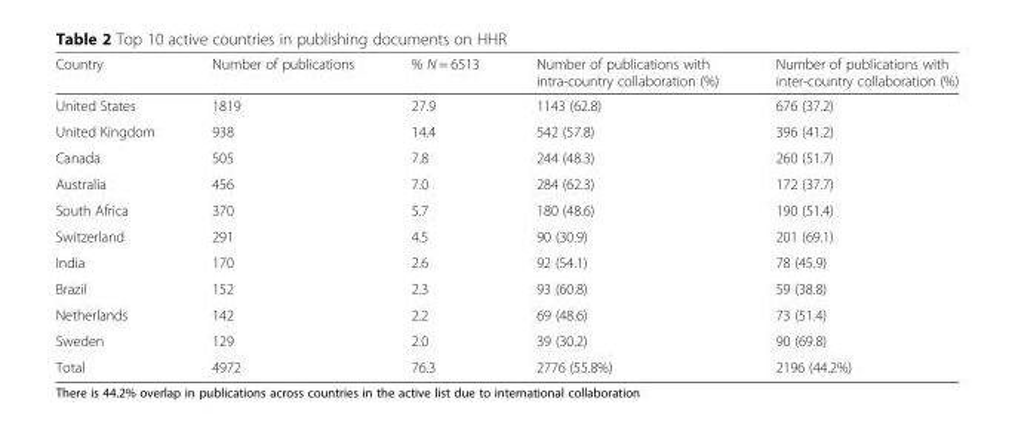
<table><thead><tr><td>Country</td><td>Number of publications</td><td>% N = 6513</td><td>Number of publications with intra-country collaboration (%)</td><td>Number of publications with inter-country collaboration (%)</td></tr></thead><tbody><tr><td>United States</td><td>1819</td><td>27.9</td><td>1143 (62.8)</td><td>676 (37.2)</td></tr><tr><td>United Kingdom</td><td>938</td><td>14.4</td><td>542 (57.8)</td><td>396 (41.2)</td></tr><tr><td>Canada</td><td>505</td><td>7.8</td><td>244 (48.3)</td><td>260 (51.7)</td></tr><tr><td>Australia</td><td>456</td><td>7.0</td><td>284 (62.3)</td><td>172 (37.7)</td></tr><tr><td>South Africa</td><td>370</td><td>5.7</td><td>180 (48.6)</td><td>190 (51.4)</td></tr><tr><td>Switzerland</td><td>291</td><td>4.5</td><td>90 (30.9)</td><td>201 (69.1)</td></tr><tr><td>India</td><td>170</td><td>2.6</td><td>92 (54.1)</td><td>78 (45.9)</td></tr><tr><td>Brazil</td><td>152</td><td>2.3</td><td>93 (60.8)</td><td>59 (38.8)</td></tr><tr><td>Netherlands</td><td>142</td><td>2.2</td><td>69 (48.6)</td><td>73 (51.4)</td></tr><tr><td>Sweden</td><td>129</td><td>2.0</td><td>39 (30.2)</td><td>90 (69.8)</td></tr><tr><td>Total</td><td>4972</td><td>76.3</td><td>2776 (55.8%)</td><td>2196 (44.2%)</td></tr></tbody></table>